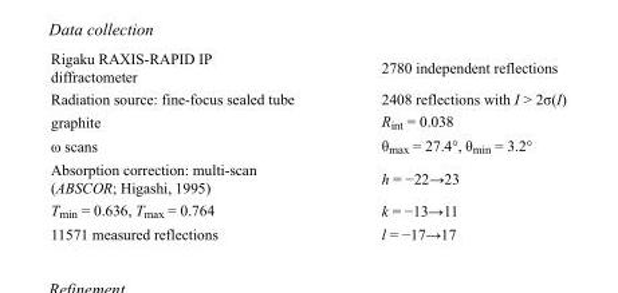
<table><tbody><tr><td>Rigaku RAXIS-RAPID IP diffractometer</td><td>2780 independent reflections</td></tr><tr><td>Radiation source: fine-focus sealed tube</td><td>2408 reflections with I &gt; 2σ(I)</td></tr><tr><td>graphite</td><td>R<sub>int</sub> = 0.038</td></tr><tr><td>ω scans</td><td>θ<sub>max</sub> = 27.4°, θ<sub>min</sub> = 3.2°</td></tr><tr><td>Absorption correction: multi-scan (ABSCOR; Higashi, 1995)</td><td>h = −22→23</td></tr><tr><td>T<sub>min</sub> = 0.636, T<sub>max</sub> = 0.764</td><td>k = −13→11</td></tr><tr><td>11571 measured reflections</td><td>l = −17→17</td></tr></tbody></table>